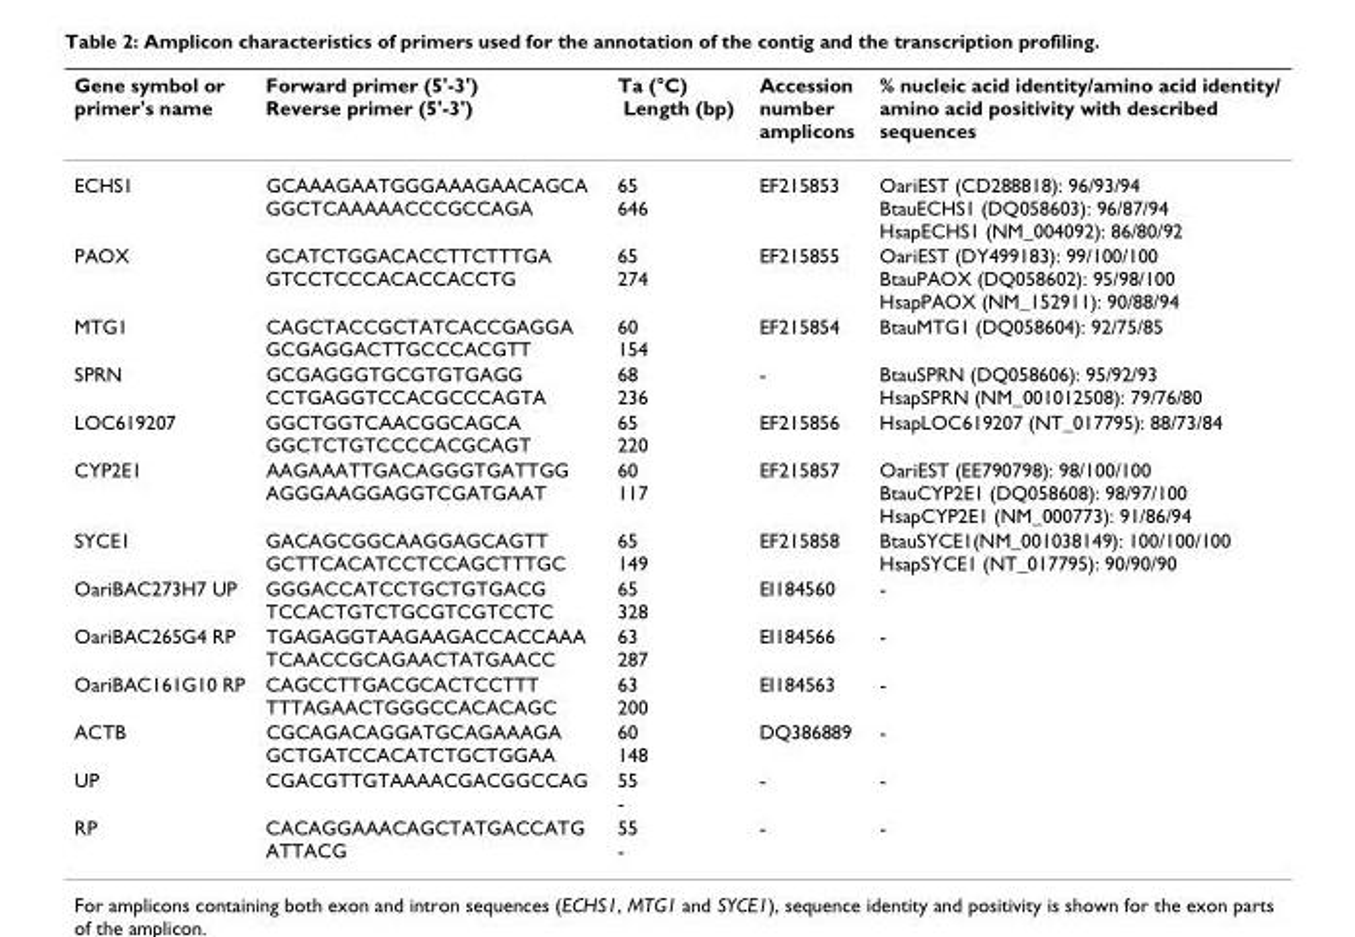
<table><thead><tr><td>Gene symbol or primer&#x27;s name</td><td>Forward primer (5&#x27;-3&#x27;) Reverse primer (5&#x27;-3&#x27;)</td><td>Ta (°C) Length (bp)</td><td>Accession number amplicons</td><td>% nucleic acid identity/amino acid identity/ amino acid positivity with described sequences</td></tr></thead><tbody><tr><td>ECHS1</td><td>GCAAAGAATGGGAAAGAACAGCA GGCTCAAAAACCCGCCAGA</td><td>65 646</td><td>EF215853</td><td>OariEST (CD288818): 96/93/94 BtauECHS1 (DQ058603): 96/87/94 HsapECHS1 (NM_004092): 86/80/92</td></tr><tr><td>PAOX</td><td>GCATCTGGACACCTTCTTTGA GTCCTCCCACACCACCTG</td><td>65 274</td><td>EF215855</td><td>OariEST (DY499183): 99/100/100 BtauPAOX (DQ058602): 95/98/100 HsapPAOX (NM_152911): 90/88/94</td></tr><tr><td>MTG1</td><td>CAGCTACCGCTATCACCGAGGA GCGAGGACTTGCCCACGTT</td><td>60 154</td><td>EF215854</td><td>BtauMTG1 (DQ058604): 92/75/85</td></tr><tr><td>SPRN</td><td>GCGAGGGTGCGTGTGAGG CCTGAGGTCCACGCCCAGTA</td><td>68 236</td><td>-</td><td>BtauSPRN (DQ058606): 95/92/93 HsapSPRN (NM_001012508): 79/76/80</td></tr><tr><td>LOC619207</td><td>GGCTGGTCAACGGCAGCA GGCTCTGTCCCCACGCAGT</td><td>65 220</td><td>EF215856</td><td>HsapLOC619207 (NT_017795): 88/73/84</td></tr><tr><td>CYP2E1</td><td>AAGAAATTGACAGGGTGATTGG AGGGAAGGAGGTCGATGAAT</td><td>60 117</td><td>EF215857</td><td>OariEST (EE790798): 98/100/100 BtauCYP2E1 (DQ058608): 98/97/100 HsapCYP2E1 (NM_000773): 91/86/94</td></tr><tr><td>SYCE1</td><td>GACAGCGGCAAGGAGCAGTT GCTTCACATCCTCCAGCTTTGC</td><td>65 149</td><td>EF215858</td><td>BtauSYCE1(NM_001038149): 100/100/100 HsapSYCE1 (NT_017795): 90/90/90</td></tr><tr><td>OariBAC273H7 UP</td><td>GGGACCATCCTGCTGTGACG TCCACTGTCTGCGTCGTCCTC</td><td>65 328</td><td>EI184560</td><td>-</td></tr><tr><td>OariBAC265G4 RP</td><td>TGAGAGGTAAGAAGACCACCAAA TCAACCGCAGAACTATGAACC</td><td>63 287</td><td>EI184566</td><td>-</td></tr><tr><td>OariBAC161G10 RP</td><td>CAGCCTTGACGCACTCCTTT TTTAGAACTGGGCCACACAGC</td><td>63 200</td><td>EI184563</td><td>-</td></tr><tr><td>ACTB</td><td>CGCAGACAGGATGCAGAAAGA GCTGATCCACATCTGCTGGAA</td><td>60 148</td><td>DQ386889</td><td>-</td></tr><tr><td>UP</td><td>CGACGTTGTAAAACGACGGCCAG</td><td>55 -</td><td>-</td><td>-</td></tr><tr><td>RP</td><td>CACAGGAAACAGCTATGACCATG ATTACG</td><td>55 -</td><td>-</td><td>-</td></tr></tbody></table>